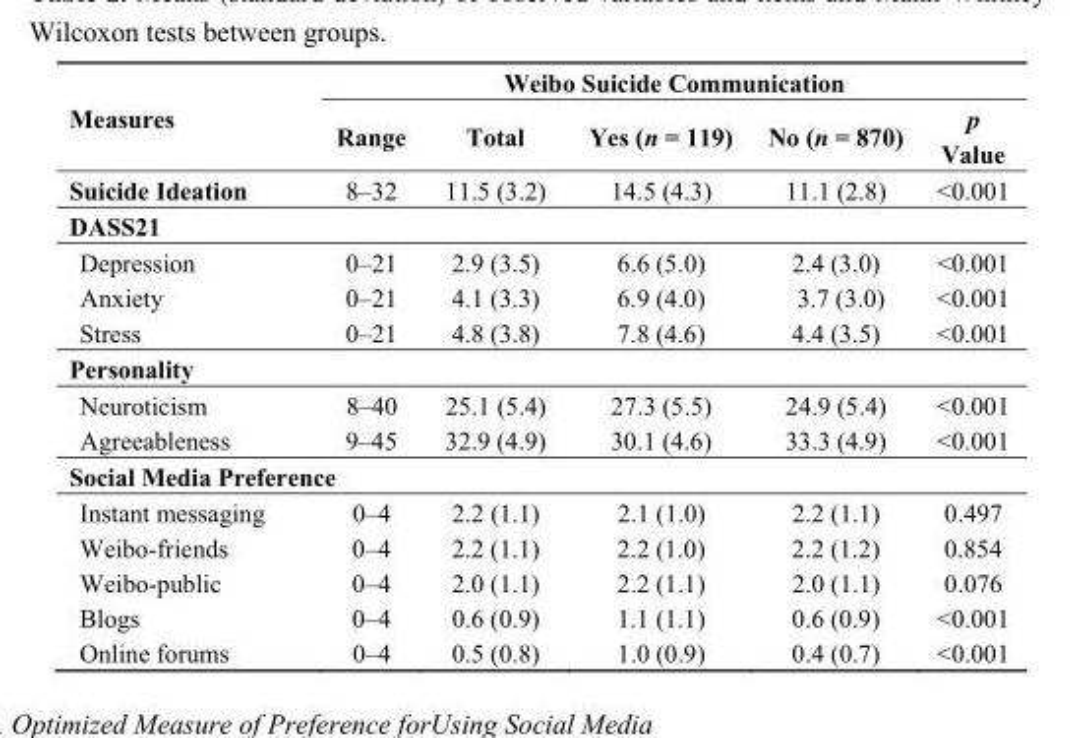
<table><thead><tr><td rowspan="2">Measures</td><td colspan="5">Weibo Suicide Communication</td></tr><tr><td>Range</td><td>Total</td><td>Yes (n = 119)</td><td>No (n = 870)</td><td>p Value</td></tr></thead><tbody><tr><td>Suicide Ideation</td><td>8–32</td><td>11.5 (3.2)</td><td>14.5 (4.3)</td><td>11.1 (2.8)</td><td>&lt;0.001</td></tr><tr><td colspan="6">DASS21</td></tr><tr><td>Depression</td><td>0–21</td><td>2.9 (3.5)</td><td>6.6 (5.0)</td><td>2.4 (3.0)</td><td>&lt;0.001</td></tr><tr><td>Anxiety</td><td>0–21</td><td>4.1 (3.3)</td><td>6.9 (4.0)</td><td>3.7 (3.0)</td><td>&lt;0.001</td></tr><tr><td>Stress</td><td>0–21</td><td>4.8 (3.8)</td><td>7.8 (4.6)</td><td>4.4 (3.5)</td><td>&lt;0.001</td></tr><tr><td colspan="6">Personality</td></tr><tr><td>Neuroticism</td><td>8–40</td><td>25.1 (5.4)</td><td>27.3 (5.5)</td><td>24.9 (5.4)</td><td>&lt;0.001</td></tr><tr><td>Agreeableness</td><td>9–45</td><td>32.9 (4.9)</td><td>30.1 (4.6)</td><td>33.3 (4.9)</td><td>&lt;0.001</td></tr><tr><td colspan="6">Social Media Preference</td></tr><tr><td>Instant messaging</td><td>0–4</td><td>2.2 (1.1)</td><td>2.1 (1.0)</td><td>2.2 (1.1)</td><td>0.497</td></tr><tr><td>Weibo-friends</td><td>0–4</td><td>2.2 (1.1)</td><td>2.2 (1.0)</td><td>2.2 (1.2)</td><td>0.854</td></tr><tr><td>Weibo-public</td><td>0–4</td><td>2.0 (1.1)</td><td>2.2 (1.1)</td><td>2.0 (1.1)</td><td>0.076</td></tr><tr><td>Blogs</td><td>0–4</td><td>0.6 (0.9)</td><td>1.1 (1.1)</td><td>0.6 (0.9)</td><td>&lt;0.001</td></tr><tr><td>Online forums</td><td>0–4</td><td>0.5 (0.8)</td><td>1.0 (0.9)</td><td>0.4 (0.7)</td><td>&lt;0.001</td></tr></tbody></table>